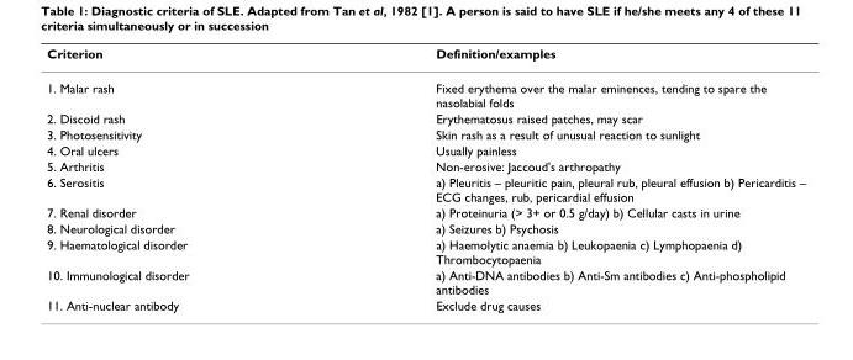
<table><thead><tr><td>Criterion</td><td>Definition/examples</td></tr></thead><tbody><tr><td>1. Malar rash</td><td>Fixed erythema over the malar eminences, tending to spare the nasolabial folds</td></tr><tr><td>2. Discoid rash</td><td>Erythematosus raised patches, may scar</td></tr><tr><td>3. Photosensitivity</td><td>Skin rash as a result of unusual reaction to sunlight</td></tr><tr><td>4. Oral ulcers</td><td>Usually painless</td></tr><tr><td>5. Arthritis</td><td>Non-erosive: Jaccoud&#x27;s arthropathy</td></tr><tr><td>6. Serositis</td><td>a) Pleuritis – pleuritic pain, pleural rub, pleural effusion b) Pericarditis – ECG changes, rub, pericardial effusion</td></tr><tr><td>7. Renal disorder</td><td>a) Proteinuria (&gt; 3+ or 0.5 g/day) b) Cellular casts in urine</td></tr><tr><td>8. Neurological disorder</td><td>a) Seizures b) Psychosis</td></tr><tr><td>9. Haematological disorder</td><td>a) Haemolytic anaemia b) Leukopaenia c) Lymphopaenia d) Thrombocytopaenia</td></tr><tr><td>10. Immunological disorder</td><td>a) Anti-DNA antibodies b) Anti-Sm antibodies c) Anti-phospholipid antibodies</td></tr><tr><td>11. Anti-nuclear antibody</td><td>Exclude drug causes</td></tr></tbody></table>